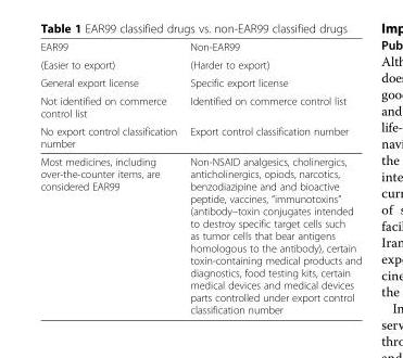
<table><thead><tr><td rowspan="5">EAR99 (Easier to export) General export license Not identified on commerce control list No export control classification number</td><td rowspan="5">Non-EAR99 (Harder to export) Specific export license Identified on commerce control list Export control classification number</td></tr><tr></tr><tr></tr><tr></tr><tr></tr></thead><tbody><tr><td>Most medicines, including over-the-counter items, are considered EAR99</td><td>Non-NSAID analgesics, cholinergics, anticholinergics, opiods, narcotics, benzodiazipine and and bioactive peptide, vaccines, “immunotoxins” (antibody–toxin conjugates intended to destroy specific target cells such as tumor cells that bear antigens homologous to the antibody), certain toxin-containing medical products and diagnostics, food testing kits, certain medical devices and medical devices parts controlled under export control classification number</td></tr></tbody></table>